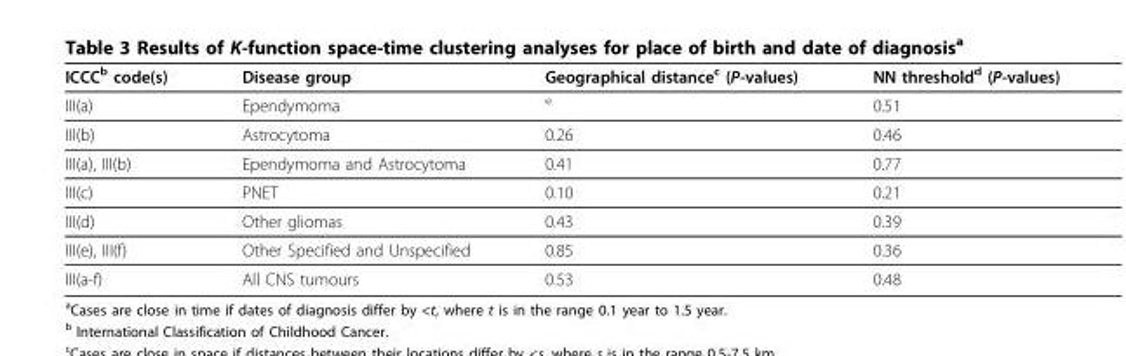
<table><thead><tr><td>ICCC<sup>b</sup> code(s)</td><td>Disease group</td><td>Geographical distance<sup>c</sup> (P-values)</td><td>NN threshold<sup>d</sup> (P-values)</td></tr></thead><tbody><tr><td>III(a)</td><td>Ependymoma</td><td><sup>e</sup></td><td>0.51</td></tr><tr><td>III(b)</td><td>Astrocytoma</td><td>0.26</td><td>0.46</td></tr><tr><td>III(a), III(b)</td><td>Ependymoma and Astrocytoma</td><td>0.41</td><td>0.77</td></tr><tr><td>III(c)</td><td>PNET</td><td>0.10</td><td>0.21</td></tr><tr><td>III(d)</td><td>Other gliomas</td><td>0.43</td><td>0.39</td></tr><tr><td>III(e), III(f)</td><td>Other Specified and Unspecified</td><td>0.85</td><td>0.36</td></tr><tr><td>III(a-f)</td><td>All CNS tumours</td><td>0.53</td><td>0.48</td></tr></tbody></table>